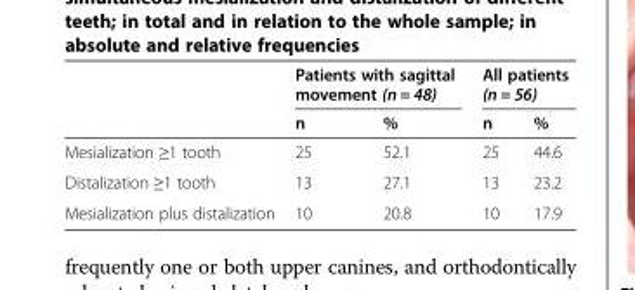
<table><thead><tr><td rowspan="2"></td><td colspan="2">Patients with sagittal movement (n = 48)</td><td colspan="2">All patients (n = 56)</td></tr><tr><td>n</td><td>%</td><td>n</td><td>%</td></tr></thead><tbody><tr><td>Mesialization ≥1 tooth</td><td>25</td><td>52.1</td><td>25</td><td>44.6</td></tr><tr><td>Distalization ≥1 tooth</td><td>13</td><td>27.1</td><td>13</td><td>23.2</td></tr><tr><td>Mesialization plus distalization</td><td>10</td><td>20.8</td><td>10</td><td>17.9</td></tr></tbody></table>